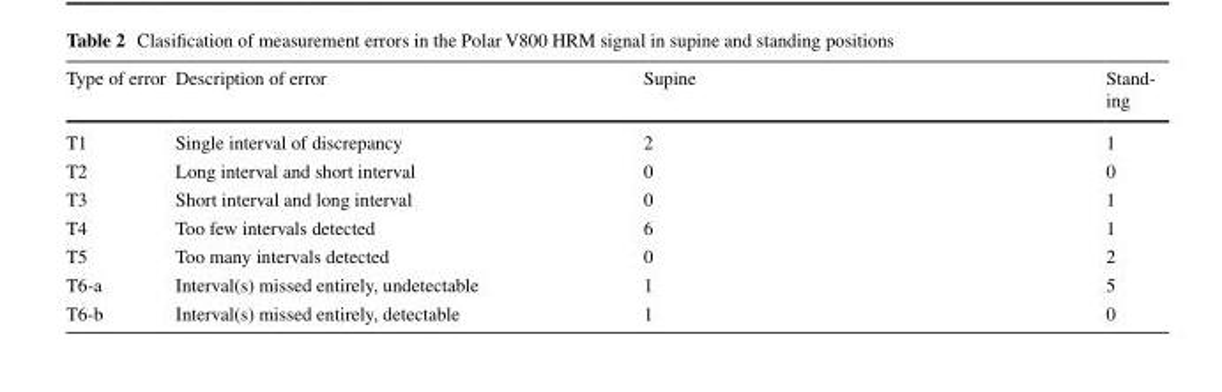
<table><thead><tr><td>Type of error</td><td>Description of error</td><td>Supine</td><td>Stand- ing</td></tr></thead><tbody><tr><td>T1</td><td>Single interval of discrepancy</td><td>2</td><td>1</td></tr><tr><td>T2</td><td>Long interval and short interval</td><td>0</td><td>0</td></tr><tr><td>T3</td><td>Short interval and long interval</td><td>0</td><td>1</td></tr><tr><td>T4</td><td>Too few intervals detected</td><td>6</td><td>1</td></tr><tr><td>T5</td><td>Too many intervals detected</td><td>0</td><td>2</td></tr><tr><td>T6-a</td><td>Interval(s) missed entirely, undetectable</td><td>1</td><td>5</td></tr><tr><td>T6-b</td><td>Interval(s) missed entirely, detectable</td><td>1</td><td>0</td></tr></tbody></table>